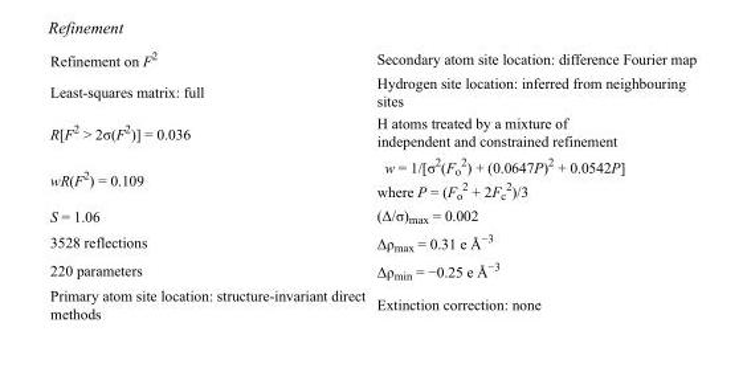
<table><tbody><tr><td>Refinement on F<sup>2</sup></td><td>Secondary atom site location: difference Fourier map</td></tr><tr><td>Least-squares matrix: full</td><td>Hydrogen site location: inferred from neighbouring sites</td></tr><tr><td>R[F<sup>2</sup> &gt; 2σ(F<sup>2</sup>)] = 0.036</td><td>H atoms treated by a mixture of independent and constrained refinement</td></tr><tr><td>wR(F<sup>2</sup>) = 0.109</td><td>w = 1/[σ<sup>2</sup>(F<sub>o</sub> <sup>2</sup>) + (0.0647P)<sup>2</sup> + 0.0542P] where P = (F<sub>o</sub> <sup>2</sup> + 2F<sub>c</sub> <sup>2</sup>)/3</td></tr><tr><td>S = 1.06</td><td>(Δ/σ)<sub>max</sub> = 0.002</td></tr><tr><td>3528 reflections</td><td>Δρ<sub>max</sub> = 0.31 e Å<sup>−3</sup></td></tr><tr><td>220 parameters</td><td>Δρ<sub>min</sub> = −0.25 e Å<sup>−3</sup></td></tr><tr><td>Primary atom site location: structure-invariant direct methods</td><td>Extinction correction: none</td></tr></tbody></table>